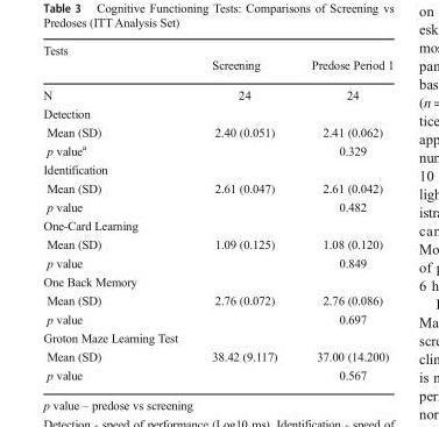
<table><thead><tr><td rowspan="2">Tests</td><td rowspan="2">Screening</td><td rowspan="2">Predose Period 1</td></tr><tr></tr></thead><tbody><tr><td>N</td><td>24</td><td>24</td></tr><tr><td colspan="3">Detection</td></tr><tr><td>Mean (SD)</td><td>2.40 (0.051)</td><td>2.41 (0.062)</td></tr><tr><td>p value<sup>a</sup></td><td></td><td>0.329</td></tr><tr><td colspan="3">Identification</td></tr><tr><td>Mean (SD)</td><td>2.61 (0.047)</td><td>2.61 (0.042)</td></tr><tr><td>p value</td><td></td><td>0.482</td></tr><tr><td colspan="3">One-Card Learning</td></tr><tr><td>Mean (SD)</td><td>1.09 (0.125)</td><td>1.08 (0.120)</td></tr><tr><td>p value</td><td></td><td>0.849</td></tr><tr><td colspan="3">One Back Memory</td></tr><tr><td>Mean (SD)</td><td>2.76 (0.072)</td><td>2.76 (0.086)</td></tr><tr><td>p value</td><td></td><td>0.697</td></tr><tr><td colspan="3">Groton Maze Learning Test</td></tr><tr><td>Mean (SD)</td><td>38.42 (9.117)</td><td>37.00 (14.200)</td></tr><tr><td>p value</td><td></td><td>0.567</td></tr></tbody></table>